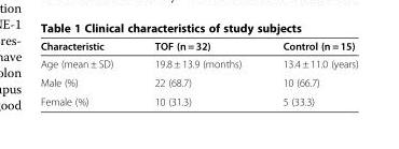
<table><thead><tr><td>Characteristic</td><td>TOF (n = 32)</td><td>Control (n = 15)</td></tr></thead><tbody><tr><td>Age (mean ± SD)</td><td>19.8 ± 13.9 (months)</td><td>13.4 ± 11.0 (years)</td></tr><tr><td>Male (%)</td><td>22 (68.7)</td><td>10 (66.7)</td></tr><tr><td>Female (%)</td><td>10 (31.3)</td><td>5 (33.3)</td></tr></tbody></table>